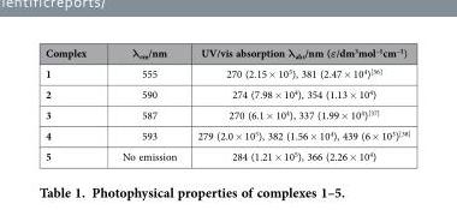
<table><thead><tr><td>Complex</td><td>λ<sub>em</sub>/nm</td><td>UV/vis absorption λ<sub>abs</sub>/nm (ε/dm<sup>3</sup>mol<sup>–1</sup>cm<sup>–1</sup>)</td></tr></thead><tbody><tr><td>1</td><td>555</td><td>270 (2.15 × 10<sup>5</sup>), 381 (2.47 × 10<sup>4</sup>)<sup>[36]</sup></td></tr><tr><td>2</td><td>590</td><td>274 (7.98 × 10<sup>4</sup>), 354 (1.13 × 10<sup>4</sup>)</td></tr><tr><td>3</td><td>587</td><td>270 (6.1 × 10<sup>4</sup>), 337 (1.99 × 10<sup>4</sup>)<sup>[37]</sup></td></tr><tr><td>4</td><td>593</td><td>279 (2.0 × 10<sup>5</sup>), 382 (1.56 × 10<sup>4</sup>), 439 (6 × 10<sup>3</sup>)<sup>[38]</sup></td></tr><tr><td>5</td><td>No emission</td><td>284 (1.21 × 10<sup>5</sup>), 366 (2.26 × 10<sup>4</sup>)</td></tr></tbody></table>